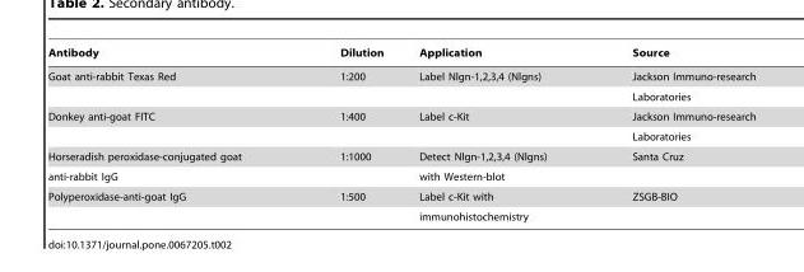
<table><thead><tr><td>Antibody</td><td>Dilution</td><td>Application</td><td>Source</td></tr></thead><tbody><tr><td rowspan="2">Goat anti-rabbit Texas Red</td><td>1:200</td><td>Label Nlgn-1,2,3,4 (Nlgns)</td><td>Jackson Immuno-research</td></tr><tr><td></td><td></td><td>Laboratories</td></tr><tr><td rowspan="2">Donkey anti-goat FITC</td><td>1:400</td><td>Label c-Kit</td><td>Jackson Immuno-research</td></tr><tr><td></td><td></td><td>Laboratories</td></tr><tr><td>Horseradish peroxidase-conjugated goat</td><td>1:1000</td><td>Detect Nlgn-1,2,3,4 (Nlgns)</td><td>Santa Cruz</td></tr><tr><td>anti-rabbit IgG</td><td></td><td>with Western-blot</td><td></td></tr><tr><td rowspan="2">Polyperoxidase-anti-goat IgG</td><td>1:500</td><td>Label c-Kit with</td><td>ZSGB-BIO</td></tr><tr><td></td><td>immunohistochemistry</td><td></td></tr></tbody></table>